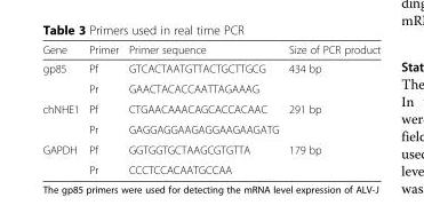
<table><thead><tr><td>Gene</td><td>Primer</td><td>Primer sequence</td><td>Size of PCR product</td></tr></thead><tbody><tr><td rowspan="2">gp85</td><td>Pf</td><td>GTCACTAATGTTACTGCTTGCG</td><td rowspan="2">434 bp</td></tr><tr><td>Pr</td><td>GAACTACACCAATTAGAAAG</td></tr><tr><td rowspan="2">chNHE1</td><td>Pf</td><td>CTGAACAAACAGCACCACAAC</td><td rowspan="2">291 bp</td></tr><tr><td>Pr</td><td>GAGGAGGAAGAGGAAGAAGATG</td></tr><tr><td rowspan="2">GAPDH</td><td>Pf</td><td>GGTGGTGCTAAGCGTGTTA</td><td rowspan="2">179 bp</td></tr><tr><td>Pr</td><td>CCCTCCACAATGCCAA</td></tr></tbody></table>